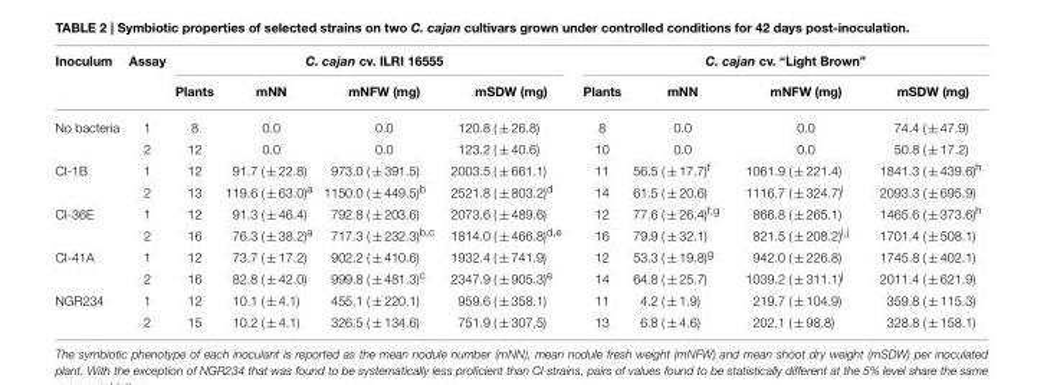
<table><thead><tr><td rowspan="2">Inoculum</td><td rowspan="2">Assay</td><td colspan="4">C. cajan cv. ILRI 16555</td><td colspan="4">C. cajan cv. “Light Brown”</td></tr><tr><td>Plants</td><td>mNN</td><td>mNFW (mg)</td><td>mSDW (mg)</td><td>Plants</td><td>mNN</td><td>mNFW (mg)</td><td>mSDW (mg)</td></tr></thead><tbody><tr><td rowspan="2">No bacteria</td><td>1</td><td>8</td><td>0.0</td><td>0.0</td><td>120.8 ( ± 26.8)</td><td>8</td><td>0.0</td><td>0.0</td><td>74.4 ( ± 47.9)</td></tr><tr><td>2</td><td>12</td><td>0.0</td><td>0.0</td><td>123.2 ( ± 40.6)</td><td>10</td><td>0.0</td><td>0.0</td><td>50.8 ( ± 17.2)</td></tr><tr><td rowspan="2">CI-1B</td><td>1</td><td>12</td><td>91.7 ( ± 22.8)</td><td>973.0 ( ± 391.5)</td><td>2003.5 ( ± 661.1)</td><td>11</td><td>56.5 ( ± 17.7)<sup>f</sup></td><td>1061.9 ( ± 221.4)</td><td>1841.3 ( ± 439.6)<sup>h</sup></td></tr><tr><td>2</td><td>13</td><td>119.6 ( ± 63.0)<sup>a</sup></td><td>1150.0 ( ± 449.5)<sup>b</sup></td><td>2521.8 ( ± 803.2)<sup>d</sup></td><td>14</td><td>61.5 ( ± 20.6)</td><td>1116.7 ( ± 324.7)<sup>i</sup></td><td>2093.3 ( ± 695.9)</td></tr><tr><td rowspan="2">CI-36E</td><td>1</td><td>12</td><td>91.3 ( ± 46.4)</td><td>792.8 ( ± 203.6)</td><td>2073.6 ( ± 489.6)</td><td>12</td><td>77.6 ( ± 26.4)<sup>f,g</sup></td><td>866.8 ( ± 265.1)</td><td>1465.6 ( ± 373.6)<sup>h</sup></td></tr><tr><td>2</td><td>16</td><td>76.3 ( ± 38.2)<sup>a</sup></td><td>717.3 ( ± 232.3)<sup>b,c</sup></td><td>1814.0 ( ± 466.8)<sup>d,e</sup></td><td>16</td><td>79.9 ( ± 32.1)</td><td>821.5 ( ± 208.2)<sup>i,j</sup></td><td>1701.4 ( ± 508.1)</td></tr><tr><td rowspan="2">CI-41A</td><td>1</td><td>12</td><td>73.7 ( ± 17.2)</td><td>902.2 ( ± 410.6)</td><td>1932.4 ( ± 741.9)</td><td>12</td><td>53.3 ( ± 19.8)<sup>g</sup></td><td>942.0 ( ± 226.8)</td><td>1745.8 ( ± 402.1)</td></tr><tr><td>2</td><td>16</td><td>82.8 ( ± 42.0)</td><td>999.8 ( ± 481.3)<sup>c</sup></td><td>2347.9 ( ± 905.3)<sup>e</sup></td><td>14</td><td>64.8 ( ± 25.7)</td><td>1039.2 ( ± 311.1)<sup>j</sup></td><td>2011.4 ( ± 621.9)</td></tr><tr><td rowspan="2">NGR234</td><td>1</td><td>12</td><td>10.1 ( ± 4.1)</td><td>455.1 ( ± 220.1)</td><td>959.6 ( ± 358.1)</td><td>11</td><td>4.2 ( ± 1.9)</td><td>219.7 ( ± 104.9)</td><td>359.8 ( ± 115.3)</td></tr><tr><td>2</td><td>15</td><td>10.2 ( ± 4.1)</td><td>326.5 ( ± 134.6)</td><td>751.9 ( ± 307.5)</td><td>13</td><td>6.8 ( ± 4.6)</td><td>202.1 ( ± 98.8)</td><td>328.8 ( ± 158.1)</td></tr></tbody></table>